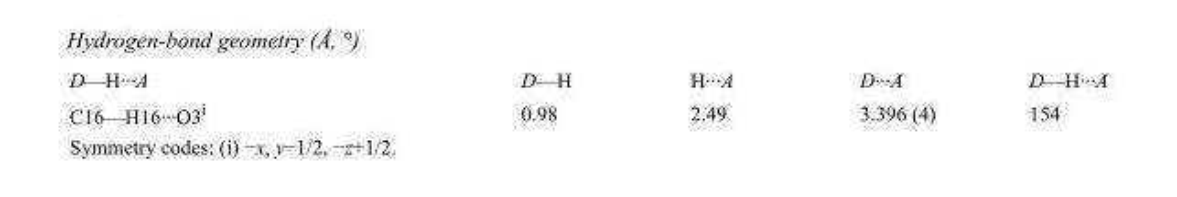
<table><tbody><tr><td>D—H···A</td><td>D—H</td><td>H···A</td><td>D···A</td><td>D—H···A</td></tr><tr><td>C16—H16···O3<sup>i</sup></td><td>0.98</td><td>2.49</td><td>3.396 (4)</td><td>154</td></tr></tbody></table>